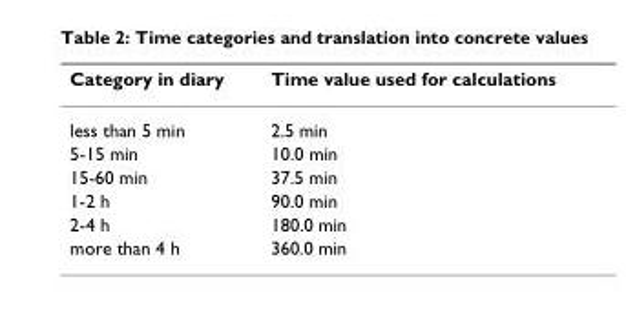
<table><thead><tr><td>Category in diary</td><td>Time value used for calculations</td></tr></thead><tbody><tr><td>less than 5 min</td><td>2.5 min</td></tr><tr><td>5-15 min</td><td>10.0 min</td></tr><tr><td>15-60 min</td><td>37.5 min</td></tr><tr><td>1-2 h</td><td>90.0 min</td></tr><tr><td>2-4 h</td><td>180.0 min</td></tr><tr><td>more than 4 h</td><td>360.0 min</td></tr></tbody></table>